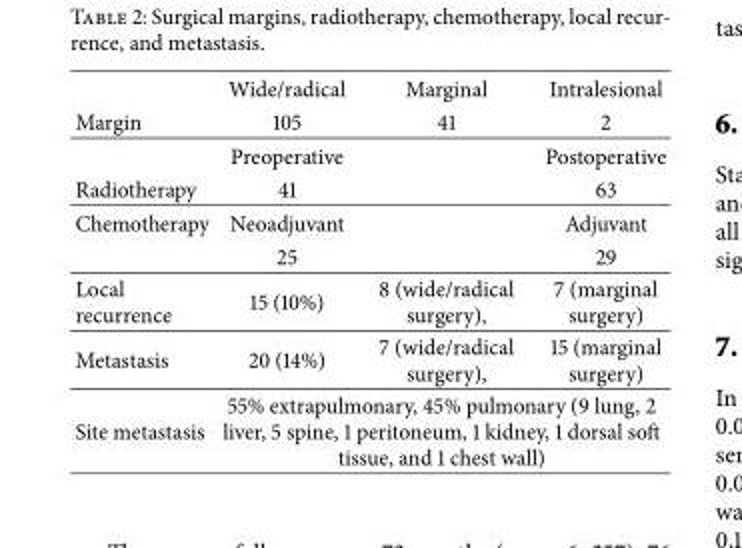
<table><thead><tr><td></td><td>Wide/radical</td><td>Marginal</td><td>Intralesional</td></tr></thead><tbody><tr><td rowspan="2">Margin</td><td>105</td><td>41</td><td>2</td></tr><tr><td>Preoperative</td><td></td><td>Postoperative</td></tr><tr><td>Radiotherapy</td><td>41</td><td></td><td>63</td></tr><tr><td rowspan="2">Chemotherapy</td><td>Neoadjuvant</td><td></td><td>Adjuvant</td></tr><tr><td>25</td><td></td><td>29</td></tr><tr><td>Local recurrence</td><td>15 (10%)</td><td>8 (wide/radical surgery),</td><td>7 (marginal surgery)</td></tr><tr><td>Metastasis</td><td>20 (14%)</td><td>7 (wide/radical surgery),</td><td>15 (marginal surgery)</td></tr><tr><td>Site metastasis</td><td colspan="3">55% extrapulmonary, 45% pulmonary (9 lung, 2 liver, 5 spine, 1 peritoneum, 1 kidney, 1 dorsal soft tissue, and 1 chest wall)</td></tr></tbody></table>